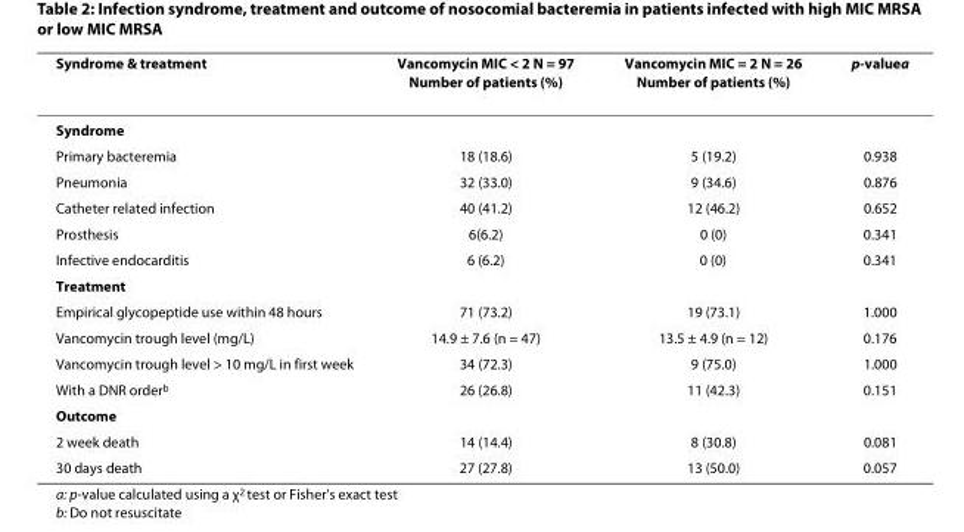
<table><thead><tr><td>Syndrome &amp; treatment</td><td>Vancomycin MIC &lt; 2 N = 97 Number of patients (%)</td><td>Vancomycin MIC = 2 N = 26 Number of patients (%)</td><td>p-value<sup>a</sup></td></tr></thead><tbody><tr><td colspan="4">Syndrome</td></tr><tr><td>Primary bacteremia</td><td>18 (18.6)</td><td>5 (19.2)</td><td>0.938</td></tr><tr><td>Pneumonia</td><td>32 (33.0)</td><td>9 (34.6)</td><td>0.876</td></tr><tr><td>Catheter related infection</td><td>40 (41.2)</td><td>12 (46.2)</td><td>0.652</td></tr><tr><td>Prosthesis</td><td>6(6.2)</td><td>0 (0)</td><td>0.341</td></tr><tr><td>Infective endocarditis</td><td>6 (6.2)</td><td>0 (0)</td><td>0.341</td></tr><tr><td colspan="4">Treatment</td></tr><tr><td>Empirical glycopeptide use within 48 hours</td><td>71 (73.2)</td><td>19 (73.1)</td><td>1.000</td></tr><tr><td>Vancomycin trough level (mg/L)</td><td>14.9 ± 7.6 (n = 47)</td><td>13.5 ± 4.9 (n = 12)</td><td>0.176</td></tr><tr><td>Vancomycin trough level &gt; 10 mg/L in first week</td><td>34 (72.3)</td><td>9 (75.0)</td><td>1.000</td></tr><tr><td>With a DNR order<sup>b</sup></td><td>26 (26.8)</td><td>11 (42.3)</td><td>0.151</td></tr><tr><td colspan="4">Outcome</td></tr><tr><td>2 week death</td><td>14 (14.4)</td><td>8 (30.8)</td><td>0.081</td></tr><tr><td>30 days death</td><td>27 (27.8)</td><td>13 (50.0)</td><td>0.057</td></tr></tbody></table>